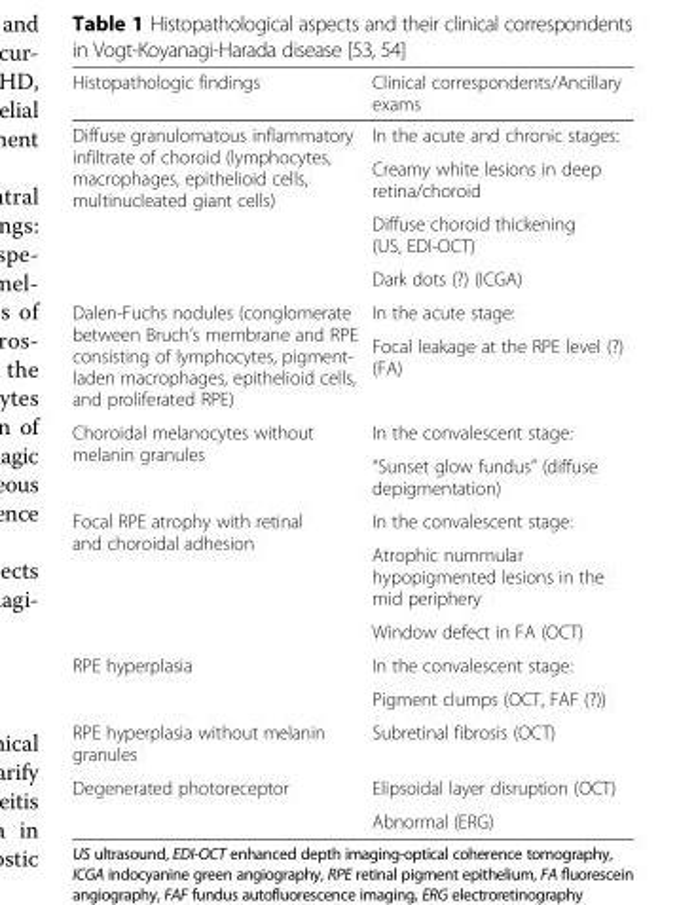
<table><thead><tr><td>Histopathologic findings</td><td>Clinical correspondents/Ancillary exams</td></tr></thead><tbody><tr><td rowspan="4">Diffuse granulomatous inflammatory infiltrate of choroid (lymphocytes, macrophages, epithelioid cells, multinucleated giant cells)</td><td>In the acute and chronic stages:</td></tr><tr><td>Creamy white lesions in deep retina/choroid</td></tr><tr><td>Diffuse choroid thickening (US, EDI-OCT)</td></tr><tr><td>Dark dots (?) (ICGA)</td></tr><tr><td rowspan="2">Dalen-Fuchs nodules (conglomerate between Bruch’s membrane and RPE consisting of lymphocytes, pigment- laden macrophages, epithelioid cells, and proliferated RPE)</td><td>In the acute stage:</td></tr><tr><td>Focal leakage at the RPE level (?) (FA)</td></tr><tr><td rowspan="2">Choroidal melanocytes without melanin granules</td><td>In the convalescent stage:</td></tr><tr><td>“Sunset glow fundus” (diffuse depigmentation)</td></tr><tr><td rowspan="3">Focal RPE atrophy with retinal and choroidal adhesion</td><td>In the convalescent stage:</td></tr><tr><td>Atrophic nummular hypopigmented lesions in the mid periphery</td></tr><tr><td>Window defect in FA (OCT)</td></tr><tr><td rowspan="2">RPE hyperplasia</td><td>In the convalescent stage:</td></tr><tr><td>Pigment clumps (OCT, FAF (?))</td></tr><tr><td>RPE hyperplasia without melanin granules</td><td>Subretinal fibrosis (OCT)</td></tr><tr><td rowspan="2">Degenerated photoreceptor</td><td>Elipsoidal layer disruption (OCT)</td></tr><tr><td>Abnormal (ERG)</td></tr></tbody></table>